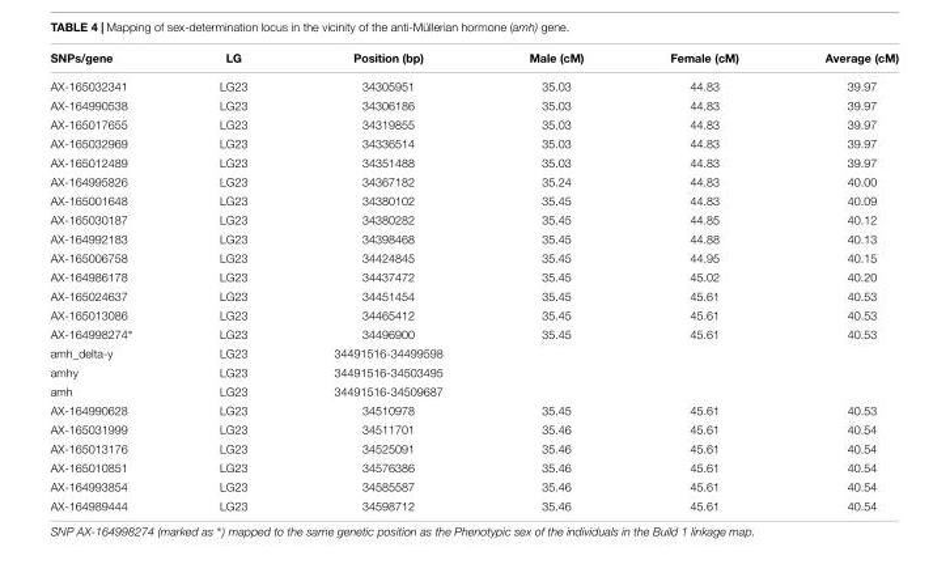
<table><thead><tr><td>SNPs/gene</td><td>LG</td><td>Position (bp)</td><td>Male (cM)</td><td>Female (cM)</td><td>Average (cM)</td></tr></thead><tbody><tr><td>AX-165032341</td><td>LG23</td><td>34305951</td><td>35.03</td><td>44.83</td><td>39.97</td></tr><tr><td>AX-164990538</td><td>LG23</td><td>34306186</td><td>35.03</td><td>44.83</td><td>39.97</td></tr><tr><td>AX-165017655</td><td>LG23</td><td>34319855</td><td>35.03</td><td>44.83</td><td>39.97</td></tr><tr><td>AX-165032969</td><td>LG23</td><td>34336514</td><td>35.03</td><td>44.83</td><td>39.97</td></tr><tr><td>AX-165012489</td><td>LG23</td><td>34351488</td><td>35.03</td><td>44.83</td><td>39.97</td></tr><tr><td>AX-164995826</td><td>LG23</td><td>34367182</td><td>35.24</td><td>44.83</td><td>40.00</td></tr><tr><td>AX-165001648</td><td>LG23</td><td>34380102</td><td>35.45</td><td>44.83</td><td>40.09</td></tr><tr><td>AX-165030187</td><td>LG23</td><td>34380282</td><td>35.45</td><td>44.85</td><td>40.12</td></tr><tr><td>AX-164992183</td><td>LG23</td><td>34398468</td><td>35.45</td><td>44.88</td><td>40.13</td></tr><tr><td>AX-165006758</td><td>LG23</td><td>34424845</td><td>35.45</td><td>44.95</td><td>40.15</td></tr><tr><td>AX-164986178</td><td>LG23</td><td>34437472</td><td>35.45</td><td>45.02</td><td>40.20</td></tr><tr><td>AX-165024637</td><td>LG23</td><td>34451454</td><td>35.45</td><td>45.61</td><td>40.53</td></tr><tr><td>AX-165013086</td><td>LG23</td><td>34465412</td><td>35.45</td><td>45.61</td><td>40.53</td></tr><tr><td>AX-164998274∗</td><td>LG23</td><td>34496900</td><td>35.45</td><td>45.61</td><td>40.53</td></tr><tr><td>amh_delta-y</td><td>LG23</td><td>34491516-34499598</td><td></td><td></td><td></td></tr><tr><td>amhy</td><td>LG23</td><td>34491516-34503495</td><td></td><td></td><td></td></tr><tr><td>amh</td><td>LG23</td><td>34491516-34509687</td><td></td><td></td><td></td></tr><tr><td>AX-164990628</td><td>LG23</td><td>34510978</td><td>35.45</td><td>45.61</td><td>40.53</td></tr><tr><td>AX-165031999</td><td>LG23</td><td>34511701</td><td>35.46</td><td>45.61</td><td>40.54</td></tr><tr><td>AX-165013176</td><td>LG23</td><td>34525091</td><td>35.46</td><td>45.61</td><td>40.54</td></tr><tr><td>AX-165010851</td><td>LG23</td><td>34576386</td><td>35.46</td><td>45.61</td><td>40.54</td></tr><tr><td>AX-164993854</td><td>LG23</td><td>34585587</td><td>35.46</td><td>45.61</td><td>40.54</td></tr><tr><td>AX-164989444</td><td>LG23</td><td>34598712</td><td>35.46</td><td>45.61</td><td>40.54</td></tr></tbody></table>